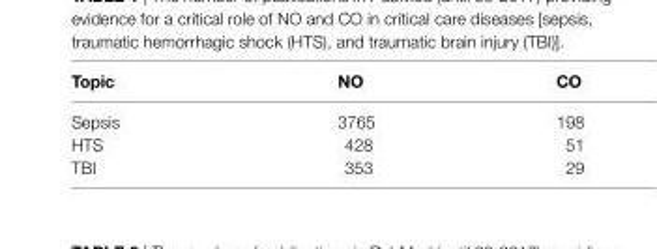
<table><thead><tr><td>Topic</td><td>NO</td><td>CO</td></tr></thead><tbody><tr><td>Sepsis</td><td>3765</td><td>198</td></tr><tr><td>HTS</td><td>428</td><td>51</td></tr><tr><td>TBI</td><td>353</td><td>29</td></tr></tbody></table>